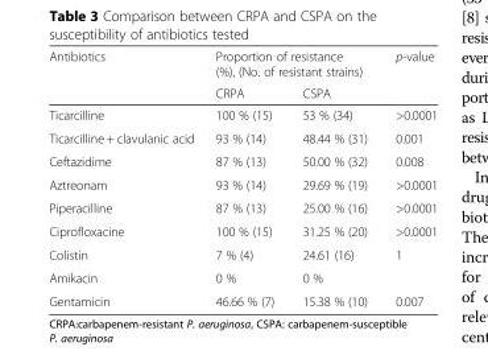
<table><thead><tr><td rowspan="2">Antibiotics</td><td colspan="2">Proportion of resistance (%), (No. of resistant strains)</td><td rowspan="2">p-value</td></tr><tr><td>CRPA</td><td>CSPA</td></tr></thead><tbody><tr><td>Ticarcilline</td><td>100 % (15)</td><td>53 % (34)</td><td>&gt;0.0001</td></tr><tr><td>Ticarcilline + clavulanic acid</td><td>93 % (14)</td><td>48.44 % (31)</td><td>0.001</td></tr><tr><td>Ceftazidime</td><td>87 % (13)</td><td>50.00 % (32)</td><td>0.008</td></tr><tr><td>Aztreonam</td><td>93 % (14)</td><td>29.69 % (19)</td><td>&gt;0.0001</td></tr><tr><td>Piperacilline</td><td>87 % (13)</td><td>25.00 % (16)</td><td>&gt;0.0001</td></tr><tr><td>Ciprofloxacine</td><td>100 % (15)</td><td>31.25 % (20)</td><td>&gt;0.0001</td></tr><tr><td>Colistin</td><td>7 % (4)</td><td>24.61 (16)</td><td>1</td></tr><tr><td>Amikacin</td><td>0 %</td><td>0 %</td><td></td></tr><tr><td>Gentamicin</td><td>46.66 % (7)</td><td>15.38 % (10)</td><td>0.007</td></tr></tbody></table>